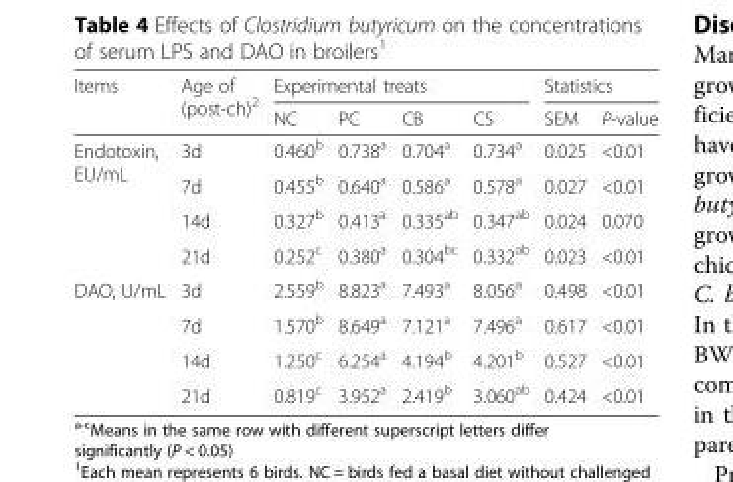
<table><thead><tr><td rowspan="2">Items</td><td rowspan="2">Age of (post-ch)<sup>2</sup></td><td colspan="4">Experimental treats</td><td colspan="2">Statistics</td></tr><tr><td>NC</td><td>PC</td><td>CB</td><td>CS</td><td>SEM</td><td>P-value</td></tr></thead><tbody><tr><td rowspan="4">Endotoxin, EU/mL</td><td>3d</td><td>0.460<sup>b</sup></td><td>0.738<sup>a</sup></td><td>0.704<sup>a</sup></td><td>0.734<sup>a</sup></td><td>0.025</td><td>&lt;0.01</td></tr><tr><td>7d</td><td>0.455<sup>b</sup></td><td>0.640<sup>a</sup></td><td>0.586<sup>a</sup></td><td>0.578<sup>a</sup></td><td>0.027</td><td>&lt;0.01</td></tr><tr><td>14d</td><td>0.327<sup>b</sup></td><td>0.413<sup>a</sup></td><td>0.335<sup>ab</sup></td><td>0.347<sup>ab</sup></td><td>0.024</td><td>0.070</td></tr><tr><td>21d</td><td>0.252<sup>c</sup></td><td>0.380<sup>a</sup></td><td>0.304<sup>bc</sup></td><td>0.332<sup>ab</sup></td><td>0.023</td><td>&lt;0.01</td></tr><tr><td rowspan="4">DAO, U/mL</td><td>3d</td><td>2.559<sup>b</sup></td><td>8.823<sup>a</sup></td><td>7.493<sup>a</sup></td><td>8.056<sup>a</sup></td><td>0.498</td><td>&lt;0.01</td></tr><tr><td>7d</td><td>1.570<sup>b</sup></td><td>8.649<sup>a</sup></td><td>7.121<sup>a</sup></td><td>7.496<sup>a</sup></td><td>0.617</td><td>&lt;0.01</td></tr><tr><td>14d</td><td>1.250<sup>c</sup></td><td>6.254<sup>a</sup></td><td>4.194<sup>b</sup></td><td>4.201<sup>b</sup></td><td>0.527</td><td>&lt;0.01</td></tr><tr><td>21d</td><td>0.819<sup>c</sup></td><td>3.952<sup>a</sup></td><td>2.419<sup>b</sup></td><td>3.060<sup>ab</sup></td><td>0.424</td><td>&lt;0.01</td></tr></tbody></table>